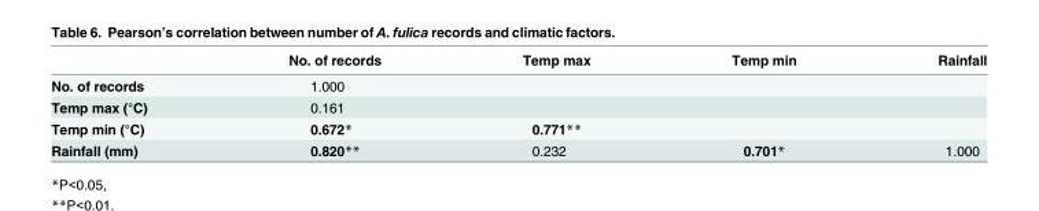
<table><thead><tr><td></td><td>No. of records</td><td>Temp max</td><td>Temp min</td><td>Rainfall</td></tr></thead><tbody><tr><td>No. of records</td><td>1.000</td><td></td><td></td><td></td></tr><tr><td>Temp max (°C)</td><td>0.161</td><td></td><td></td><td></td></tr><tr><td>Temp min (°C)</td><td>0.672*</td><td>0.771**</td><td></td><td></td></tr><tr><td>Rainfall (mm)</td><td>0.820**</td><td>0.232</td><td>0.701*</td><td>1.000</td></tr></tbody></table>